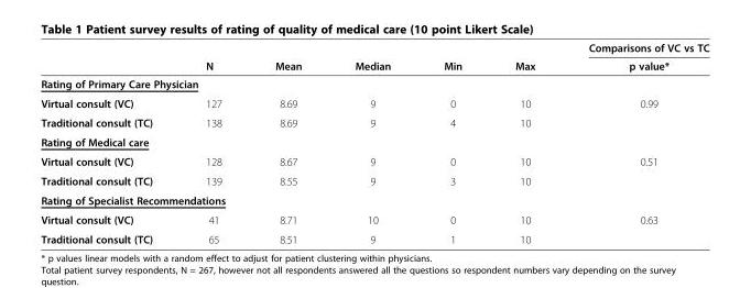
<table><thead><tr><td rowspan="2"></td><td rowspan="2">N</td><td rowspan="2">Mean</td><td rowspan="2">Median</td><td rowspan="2">Min</td><td rowspan="2">Max</td><td rowspan="2">Comparisons of VC vs TC p value*</td></tr><tr></tr></thead><tbody><tr><td colspan="7">Rating of Primary Care Physician</td></tr><tr><td>Virtual consult (VC)</td><td>127</td><td>8.69</td><td>9</td><td>0</td><td>10</td><td>0.99</td></tr><tr><td>Traditional consult (TC)</td><td>138</td><td>8.69</td><td>9</td><td>4</td><td>10</td><td></td></tr><tr><td colspan="7">Rating of Medical care</td></tr><tr><td>Virtual consult (VC)</td><td>128</td><td>8.67</td><td>9</td><td>0</td><td>10</td><td>0.51</td></tr><tr><td>Traditional consult (TC)</td><td>139</td><td>8.55</td><td>9</td><td>3</td><td>10</td><td></td></tr><tr><td colspan="7">Rating of Specialist Recommendations</td></tr><tr><td>Virtual consult (VC)</td><td>41</td><td>8.71</td><td>10</td><td>0</td><td>10</td><td>0.63</td></tr><tr><td>Traditional consult (TC)</td><td>65</td><td>8.51</td><td>9</td><td>1</td><td>10</td><td></td></tr></tbody></table>